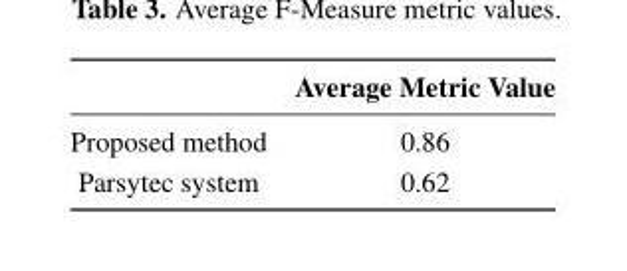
<table><thead><tr><td></td><td>Average Metric Value</td></tr></thead><tbody><tr><td>Proposed method</td><td>0.86</td></tr><tr><td>Parsytec system</td><td>0.62</td></tr></tbody></table>